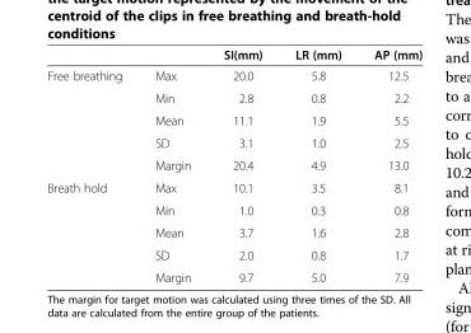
<table><thead><tr><td></td><td></td><td>SI(mm)</td><td>LR (mm)</td><td>AP (mm)</td></tr></thead><tbody><tr><td rowspan="5">Free breathing</td><td>Max</td><td>20.0</td><td>5.8</td><td>12.5</td></tr><tr><td>Min</td><td>2.8</td><td>0.8</td><td>2.2</td></tr><tr><td>Mean</td><td>11.1</td><td>1.9</td><td>5.5</td></tr><tr><td>SD</td><td>3.1</td><td>1.0</td><td>2.5</td></tr><tr><td>Margin</td><td>20.4</td><td>4.9</td><td>13.0</td></tr><tr><td rowspan="5">Breath hold</td><td>Max</td><td>10.1</td><td>3.5</td><td>8.1</td></tr><tr><td>Min</td><td>1.0</td><td>0.3</td><td>0.8</td></tr><tr><td>Mean</td><td>3.7</td><td>1.6</td><td>2.8</td></tr><tr><td>SD</td><td>2.0</td><td>0.8</td><td>1.7</td></tr><tr><td>Margin</td><td>9.7</td><td>5.0</td><td>7.9</td></tr></tbody></table>